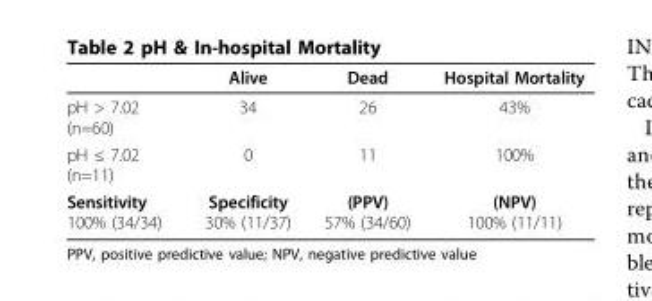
<table><thead><tr><td></td><td>Alive</td><td>Dead</td><td>Hospital Mortality</td></tr></thead><tbody><tr><td>pH &gt; 7.02 (n=60)</td><td>34</td><td>26</td><td>43%</td></tr><tr><td>pH ≤ 7.02 (n=11)</td><td>0</td><td>11</td><td>100%</td></tr><tr><td>Sensitivity 100% (34/34)</td><td>Specificity 30% (11/37)</td><td>(PPV) 57% (34/60)</td><td>(NPV) 100% (11/11)</td></tr></tbody></table>